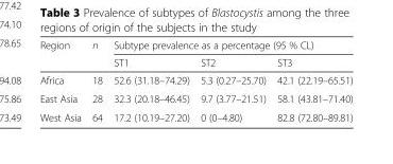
<table><thead><tr><td rowspan="2">Region</td><td rowspan="2">n</td><td colspan="3">Subtype prevalence as a percentage (95 % CL)</td></tr><tr><td>ST1</td><td>ST2</td><td>ST3</td></tr></thead><tbody><tr><td>Africa</td><td>18</td><td>52.6 (31.18–74.29)</td><td>5.3 (0.27–25.70)</td><td>42.1 (22.19–65.51)</td></tr><tr><td>East Asia</td><td>28</td><td>32.3 (20.18–46.45)</td><td>9.7 (3.77–21.51)</td><td>58.1 (43.81–71.40)</td></tr><tr><td>West Asia</td><td>64</td><td>17.2 (10.19–27.20)</td><td>0 (0–4.80)</td><td>82.8 (72.80–89.81)</td></tr></tbody></table>